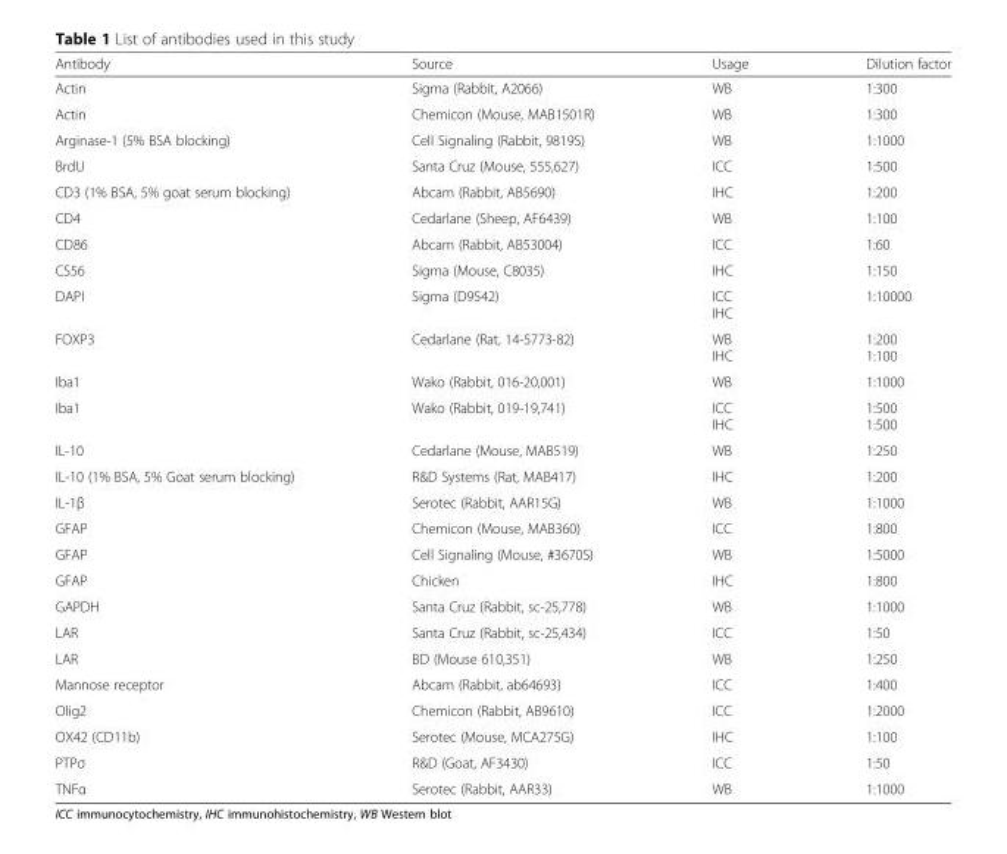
<table><thead><tr><td>Antibody</td><td>Source</td><td>Usage</td><td>Dilution factor</td></tr></thead><tbody><tr><td>Actin</td><td>Sigma (Rabbit, A2066)</td><td>WB</td><td>1:300</td></tr><tr><td>Actin</td><td>Chemicon (Mouse, MAB1501R)</td><td>WB</td><td>1:300</td></tr><tr><td>Arginase-1 (5% BSA blocking)</td><td>Cell Signaling (Rabbit, 9819S)</td><td>WB</td><td>1:1000</td></tr><tr><td>BrdU</td><td>Santa Cruz (Mouse, 555,627)</td><td>ICC</td><td>1:500</td></tr><tr><td>CD3 (1% BSA, 5% goat serum blocking)</td><td>Abcam (Rabbit, AB5690)</td><td>IHC</td><td>1:200</td></tr><tr><td>CD4</td><td>Cedarlane (Sheep, AF6439)</td><td>WB</td><td>1:100</td></tr><tr><td>CD86</td><td>Abcam (Rabbit, AB53004)</td><td>ICC</td><td>1:60</td></tr><tr><td>CS56</td><td>Sigma (Mouse, C8035)</td><td>IHC</td><td>1:150</td></tr><tr><td>DAPI</td><td>Sigma (D9542)</td><td>ICC IHC</td><td>1:10000</td></tr><tr><td>FOXP3</td><td>Cedarlane (Rat, 14-5773-82)</td><td>WB IHC</td><td>1:200 1:100</td></tr><tr><td>Iba1</td><td>Wako (Rabbit, 016-20,001)</td><td>WB</td><td>1:1000</td></tr><tr><td>Iba1</td><td>Wako (Rabbit, 019-19,741)</td><td>ICC IHC</td><td>1:500 1:500</td></tr><tr><td>IL-10</td><td>Cedarlane (Mouse, MAB519)</td><td>WB</td><td>1:250</td></tr><tr><td>IL-10 (1% BSA, 5% Goat serum blocking)</td><td>R&amp;D Systems (Rat, MAB417)</td><td>IHC</td><td>1:200</td></tr><tr><td>IL-1β</td><td>Serotec (Rabbit, AAR15G)</td><td>WB</td><td>1:1000</td></tr><tr><td>GFAP</td><td>Chemicon (Mouse, MAB360)</td><td>ICC</td><td>1:800</td></tr><tr><td>GFAP</td><td>Cell Signaling (Mouse, #3670S)</td><td>WB</td><td>1:5000</td></tr><tr><td>GFAP</td><td>Chicken</td><td>IHC</td><td>1:800</td></tr><tr><td>GAPDH</td><td>Santa Cruz (Rabbit, sc-25,778)</td><td>WB</td><td>1:1000</td></tr><tr><td>LAR</td><td>Santa Cruz (Rabbit, sc-25,434)</td><td>ICC</td><td>1:50</td></tr><tr><td>LAR</td><td>BD (Mouse 610,351)</td><td>WB</td><td>1:250</td></tr><tr><td>Mannose receptor</td><td>Abcam (Rabbit, ab64693)</td><td>ICC</td><td>1:400</td></tr><tr><td>Olig2</td><td>Chemicon (Rabbit, AB9610)</td><td>ICC</td><td>1:2000</td></tr><tr><td>OX42 (CD11b)</td><td>Serotec (Mouse, MCA275G)</td><td>IHC</td><td>1:100</td></tr><tr><td>PTPσ</td><td>R&amp;D (Goat, AF3430)</td><td>ICC</td><td>1:50</td></tr><tr><td>TNFα</td><td>Serotec (Rabbit, AAR33)</td><td>WB</td><td>1:1000</td></tr></tbody></table>